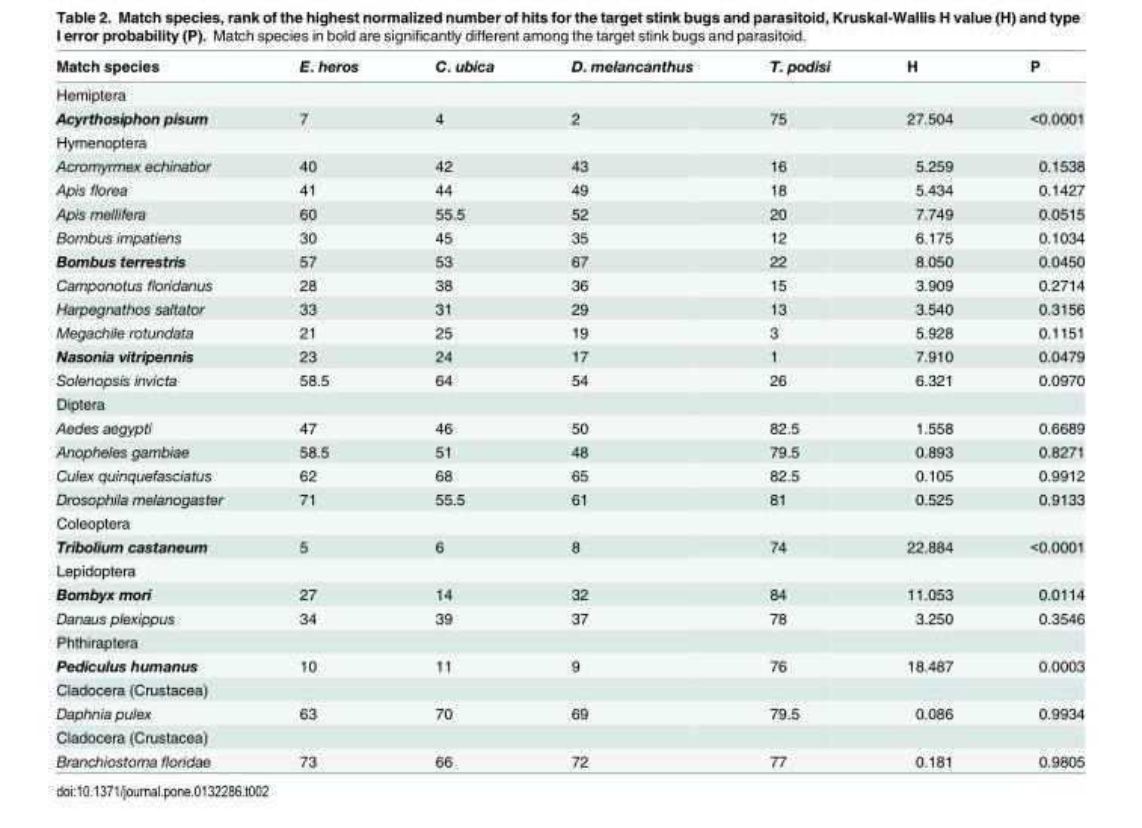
<table><thead><tr><td>Match species</td><td>E. heros</td><td>C. ubica</td><td>D. melancanthus</td><td>T. podisi</td><td>H</td><td>P</td></tr></thead><tbody><tr><td colspan="7">Hemiptera</td></tr><tr><td>Acyrthosiphon pisum</td><td>7</td><td>4</td><td>2</td><td>75</td><td>27.504</td><td>&lt;0.0001</td></tr><tr><td colspan="7">Hymenoptera</td></tr><tr><td>Acromyrmex echinatior</td><td>40</td><td>42</td><td>43</td><td>16</td><td>5.259</td><td>0.1538</td></tr><tr><td>Apis florea</td><td>41</td><td>44</td><td>49</td><td>18</td><td>5.434</td><td>0.1427</td></tr><tr><td>Apis mellifera</td><td>60</td><td>55.5</td><td>52</td><td>20</td><td>7.749</td><td>0.0515</td></tr><tr><td>Bombus impatiens</td><td>30</td><td>45</td><td>35</td><td>12</td><td>6.175</td><td>0.1034</td></tr><tr><td>Bombus terrestris</td><td>57</td><td>53</td><td>67</td><td>22</td><td>8.050</td><td>0.0450</td></tr><tr><td>Camponotus floridanus</td><td>28</td><td>38</td><td>36</td><td>15</td><td>3.909</td><td>0.2714</td></tr><tr><td>Harpegnathos saltator</td><td>33</td><td>31</td><td>29</td><td>13</td><td>3.540</td><td>0.3156</td></tr><tr><td>Megachile rotundata</td><td>21</td><td>25</td><td>19</td><td>3</td><td>5.928</td><td>0.1151</td></tr><tr><td>Nasonia vitripennis</td><td>23</td><td>24</td><td>17</td><td>1</td><td>7.910</td><td>0.0479</td></tr><tr><td>Solenopsis invicta</td><td>58.5</td><td>64</td><td>54</td><td>26</td><td>6.321</td><td>0.0970</td></tr><tr><td colspan="7">Diptera</td></tr><tr><td>Aedes aegypti</td><td>47</td><td>46</td><td>50</td><td>82.5</td><td>1.558</td><td>0.6689</td></tr><tr><td>Anopheles gambiae</td><td>58.5</td><td>51</td><td>48</td><td>79.5</td><td>0.893</td><td>0.8271</td></tr><tr><td>Culex quinquefasciatus</td><td>62</td><td>68</td><td>65</td><td>82.5</td><td>0.105</td><td>0.9912</td></tr><tr><td>Drosophila melanogaster</td><td>71</td><td>55.5</td><td>61</td><td>81</td><td>0.525</td><td>0.9133</td></tr><tr><td colspan="7">Coleoptera</td></tr><tr><td>Tribolium castaneum</td><td>5</td><td>6</td><td>8</td><td>74</td><td>22.884</td><td>&lt;0.0001</td></tr><tr><td colspan="7">Lepidoptera</td></tr><tr><td>Bombyx mori</td><td>27</td><td>14</td><td>32</td><td>84</td><td>11.053</td><td>0.0114</td></tr><tr><td>Danaus plexippus</td><td>34</td><td>39</td><td>37</td><td>78</td><td>3.250</td><td>0.3546</td></tr><tr><td colspan="7">Phthiraptera</td></tr><tr><td>Pediculus humanus</td><td>10</td><td>11</td><td>9</td><td>76</td><td>18.487</td><td>0.0003</td></tr><tr><td colspan="7">Cladocera (Crustacea)</td></tr><tr><td>Daphnia pulex</td><td>63</td><td>70</td><td>69</td><td>79.5</td><td>0.086</td><td>0.9934</td></tr><tr><td colspan="7">Cladocera (Crustacea)</td></tr><tr><td>Branchiostoma floridae</td><td>73</td><td>66</td><td>72</td><td>77</td><td>0.181</td><td>0.9805</td></tr></tbody></table>